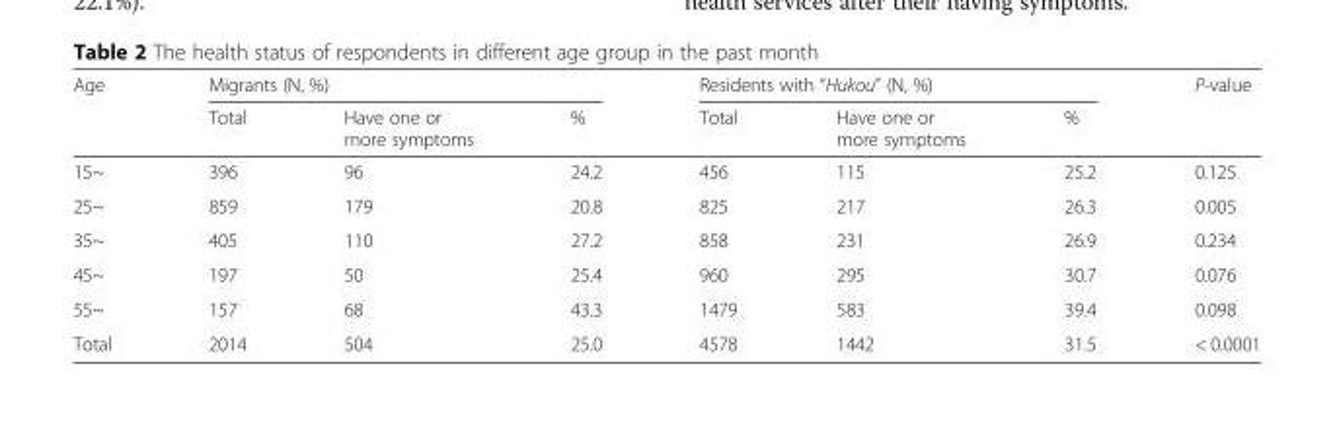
<table><thead><tr><td rowspan="2">Age</td><td colspan="3">Migrants (N, %)</td><td colspan="3">Residents with “Hukou” (N, %)</td><td rowspan="2">P-value</td></tr><tr><td>Total</td><td>Have one or more symptoms</td><td>%</td><td>Total</td><td>Have one or more symptoms</td><td>%</td></tr></thead><tbody><tr><td>15~</td><td>396</td><td>96</td><td>24.2</td><td>456</td><td>115</td><td>25.2</td><td>0.125</td></tr><tr><td>25~</td><td>859</td><td>179</td><td>20.8</td><td>825</td><td>217</td><td>26.3</td><td>0.005</td></tr><tr><td>35~</td><td>405</td><td>110</td><td>27.2</td><td>858</td><td>231</td><td>26.9</td><td>0.234</td></tr><tr><td>45~</td><td>197</td><td>50</td><td>25.4</td><td>960</td><td>295</td><td>30.7</td><td>0.076</td></tr><tr><td>55~</td><td>157</td><td>68</td><td>43.3</td><td>1479</td><td>583</td><td>39.4</td><td>0.098</td></tr><tr><td>Total</td><td>2014</td><td>504</td><td>25.0</td><td>4578</td><td>1442</td><td>31.5</td><td>&lt; 0.0001</td></tr></tbody></table>